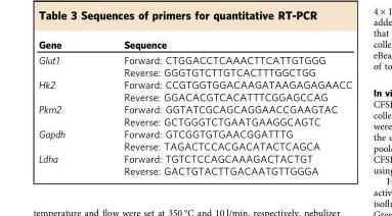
<table><thead><tr><td>Gene</td><td>Sequence</td></tr></thead><tbody><tr><td>Glut1</td><td>Forward: CTGGACCTCAAACTTCATTGTGGG Reverse: GGGTGTCTTGTCACTTTGGCTGG</td></tr><tr><td>Hk2</td><td>Forward: CCGTGGTGGACAAGATAAGAGAGAACC Reverse: GGACACGTCACATTTCGGAGCCAG</td></tr><tr><td>Pkm2</td><td>Forward: GGTATCGCAGCAGGAACCGAAGTAC Reverse: GCTGGGTCTGAATGAAGGCAGTC</td></tr><tr><td>Gapdh</td><td>Forward: GTCGGTGTGAACGGATTTG Reverse: TAGACTCCACGACATACTCAGCA</td></tr><tr><td>Ldha</td><td>Forward: TGTCTCCAGCAAAGACTACTGT Reverse: GACTGTACTTGACAATGTTGGGA</td></tr></tbody></table>